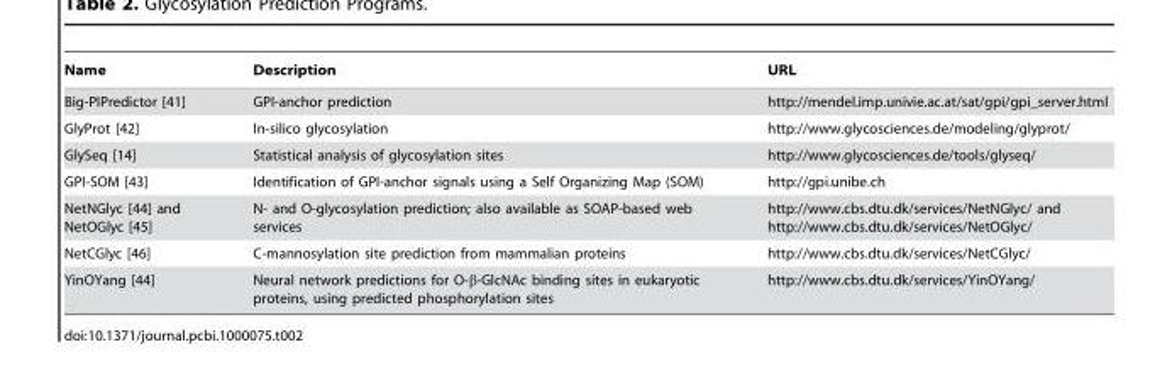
<table><thead><tr><td>Name</td><td>Description</td><td>URL</td></tr></thead><tbody><tr><td>Big-PIPredictor [41]</td><td>GPI-anchor prediction</td><td>http://mendel.imp.univie.ac.at/sat/gpi/gpi_server.html</td></tr><tr><td>GlyProt [42]</td><td>In-silico glycosylation</td><td>http://www.glycosciences.de/modeling/glyprot/</td></tr><tr><td>GlySeq [14]</td><td>Statistical analysis of glycosylation sites</td><td>http://www.glycosciences.de/tools/glyseq/</td></tr><tr><td>GPI-SOM [43]</td><td>Identification of GPI-anchor signals using a Self Organizing Map (SOM)</td><td>http://gpi.unibe.ch</td></tr><tr><td>NetNGlyc [44] and NetOGlyc [45]</td><td>N- and O-glycosylation prediction; also available as SOAP-based web services</td><td>http://www.cbs.dtu.dk/services/NetNGlyc/ and http://www.cbs.dtu.dk/services/NetOGlyc/</td></tr><tr><td>NetCGlyc [46]</td><td>C-mannosylation site prediction from mammalian proteins</td><td>http://www.cbs.dtu.dk/services/NetCGlyc/</td></tr><tr><td>YinOYang [44]</td><td>Neural network predictions for O-β-GlcNAc binding sites in eukaryotic proteins, using predicted phosphorylation sites</td><td>http://www.cbs.dtu.dk/services/YinOYang/</td></tr></tbody></table>